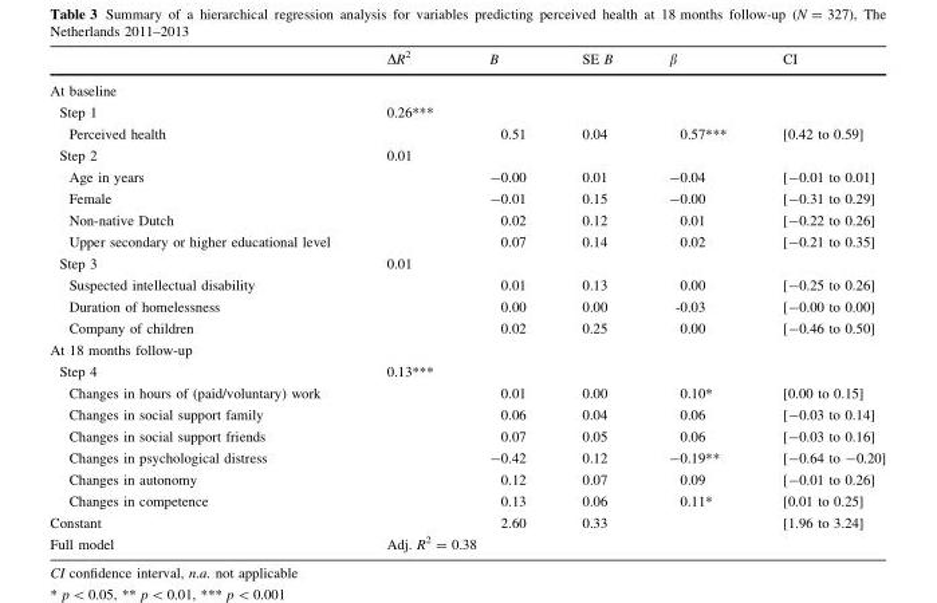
<table><thead><tr><td></td><td>∆R<sup>2</sup></td><td>B</td><td>SE B</td><td>β</td><td>CI</td></tr></thead><tbody><tr><td colspan="6">At baseline</td></tr><tr><td>Step 1</td><td>0.26***</td><td></td><td></td><td></td><td></td></tr><tr><td>Perceived health</td><td></td><td>0.51</td><td>0.04</td><td>0.57***</td><td>[0.42 to 0.59]</td></tr><tr><td>Step 2</td><td>0.01</td><td></td><td></td><td></td><td></td></tr><tr><td>Age in years</td><td></td><td>-0.00</td><td>0.01</td><td>-0.04</td><td>[-0.01 to 0.01]</td></tr><tr><td>Female</td><td></td><td>-0.01</td><td>0.15</td><td>-0.00</td><td>[-0.31 to 0.29]</td></tr><tr><td>Non-native Dutch</td><td></td><td>0.02</td><td>0.12</td><td>0.01</td><td>[-0.22 to 0.26]</td></tr><tr><td>Upper secondary or higher educational level</td><td></td><td>0.07</td><td>0.14</td><td>0.02</td><td>[-0.21 to 0.35]</td></tr><tr><td>Step 3</td><td>0.01</td><td></td><td></td><td></td><td></td></tr><tr><td>Suspected intellectual disability</td><td></td><td>0.01</td><td>0.13</td><td>0.00</td><td>[-0.25 to 0.26]</td></tr><tr><td>Duration of homelessness</td><td></td><td>0.00</td><td>0.00</td><td>-0.03</td><td>[-0.00 to 0.00]</td></tr><tr><td>Company of children</td><td></td><td>0.02</td><td>0.25</td><td>0.00</td><td>[-0.46 to 0.50]</td></tr><tr><td colspan="6">At 18 months follow-up</td></tr><tr><td>Step 4</td><td>0.13***</td><td></td><td></td><td></td><td></td></tr><tr><td>Changes in hours of (paid/voluntary) work</td><td></td><td>0.01</td><td>0.00</td><td>0.10*</td><td>[0.00 to 0.15]</td></tr><tr><td>Changes in social support family</td><td></td><td>0.06</td><td>0.04</td><td>0.06</td><td>[-0.03 to 0.14]</td></tr><tr><td>Changes in social support friends</td><td></td><td>0.07</td><td>0.05</td><td>0.06</td><td>[-0.03 to 0.16]</td></tr><tr><td>Changes in psychological distress</td><td></td><td>-0.42</td><td>0.12</td><td>-0.19**</td><td>[-0.64 to -0.20]</td></tr><tr><td>Changes in autonomy</td><td></td><td>0.12</td><td>0.07</td><td>0.09</td><td>[-0.01 to 0.26]</td></tr><tr><td>Changes in competence</td><td></td><td>0.13</td><td>0.06</td><td>0.11*</td><td>[0.01 to 0.25]</td></tr><tr><td>Constant</td><td></td><td>2.60</td><td>0.33</td><td></td><td>[1.96 to 3.24]</td></tr><tr><td>Full model</td><td colspan="5">Adj. R<sup>2</sup> = 0.38</td></tr></tbody></table>